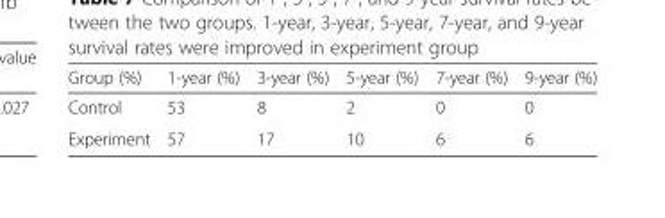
<table><thead><tr><td>Group (%)</td><td>1-year (%)</td><td>3-year (%)</td><td>5-year (%)</td><td>7-year (%)</td><td>9-year (%)</td></tr></thead><tbody><tr><td>Control</td><td>53</td><td>8</td><td>2</td><td>0</td><td>0</td></tr><tr><td>Experiment</td><td>57</td><td>17</td><td>10</td><td>6</td><td>6</td></tr></tbody></table>